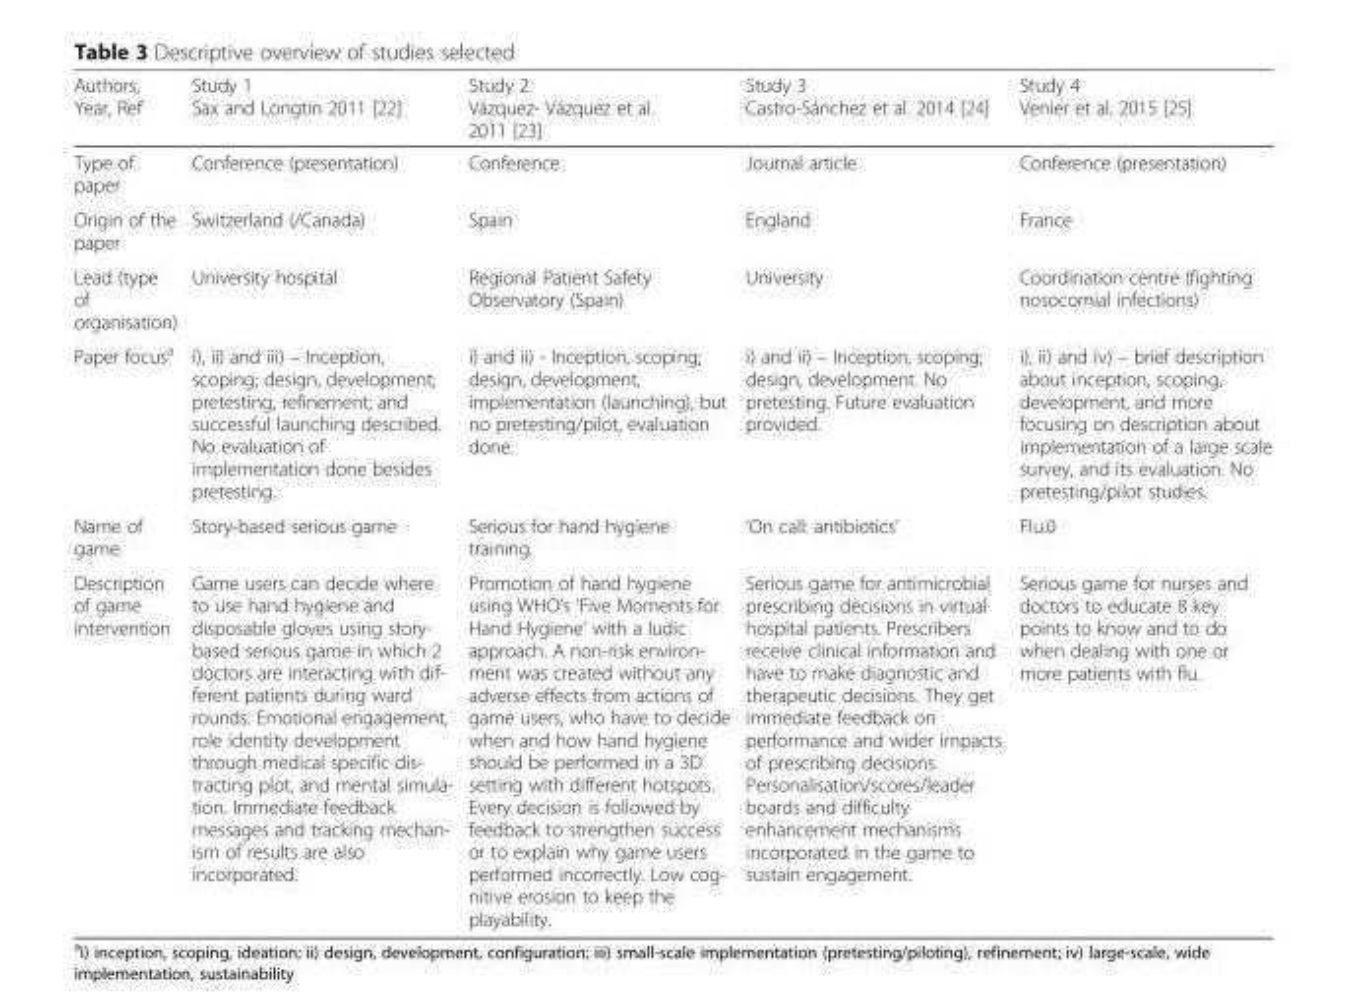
<table><thead><tr><td>Authors, Year, Ref</td><td>Study 1 Sax and Longtin 2011 [22]</td><td>Study 2 Vázquez- Vázquez et al. 2011 [23]</td><td>Study 3 Castro-Sánchez et al. 2014 [24]</td><td>Study 4 Venier et al. 2015 [25]</td></tr></thead><tbody><tr><td>Type of paper</td><td>Conference (presentation)</td><td>Conference</td><td>Journal article</td><td>Conference (presentation)</td></tr><tr><td>Origin of the paper</td><td>Switzerland (/Canada)</td><td>Spain</td><td>England</td><td>France</td></tr><tr><td>Lead (type of organisation)</td><td>University hospital</td><td>Regional Patient Safety Observatory (Spain)</td><td>University</td><td>Coordination centre (fighting nosocomial infections)</td></tr><tr><td>Paper focus<sup>a</sup></td><td>i), ii) and iii) – Inception, scoping; design, development; pretesting, refinement; and successful launching described. No evaluation of implementation done besides pretesting.</td><td>i) and ii) - Inception, scoping; design, development, implementation (launching), but no pretesting/pilot, evaluation done.</td><td>i) and ii) – Inception, scoping; design, development. No pretesting. Future evaluation provided.</td><td>i), ii) and iv) – brief description about inception, scoping, development, and more focusing on description about implementation of a large scale survey, and its evaluation. No pretesting/pilot studies.</td></tr><tr><td>Name of game</td><td>Story-based serious game</td><td>Serious for hand hygiene training.</td><td>‘On call: antibiotics’</td><td>Flu.0</td></tr><tr><td>Description of game intervention</td><td>Game users can decide where to use hand hygiene and disposable gloves using story- based serious game in which 2 doctors are interacting with dif- ferent patients during ward rounds. Emotional engagement, role identity development through medical specific dis- tracting plot, and mental simula- tion. Immediate feedback messages and tracking mechan- ism of results are also incorporated.</td><td>Promotion of hand hygiene using WHO’s ‘Five Moments for Hand Hygiene’ with a ludic approach. A non-risk environ- ment was created without any adverse effects from actions of game users, who have to decide when and how hand hygiene should be performed in a 3D setting with different hotspots. Every decision is followed by feedback to strengthen success or to explain why game users performed incorrectly. Low cog- nitive erosion to keep the playability.</td><td>Serious game for antimicrobial prescribing decisions in virtual hospital patients. Prescribers receive clinical information and have to make diagnostic and therapeutic decisions. They get immediate feedback on performance and wider impacts of prescribing decisions. Personalisation/scores/leader boards and difficulty enhancement mechanisms incorporated in the game to sustain engagement.</td><td>Serious game for nurses and doctors to educate 8 key points to know and to do when dealing with one or more patients with flu.</td></tr></tbody></table>